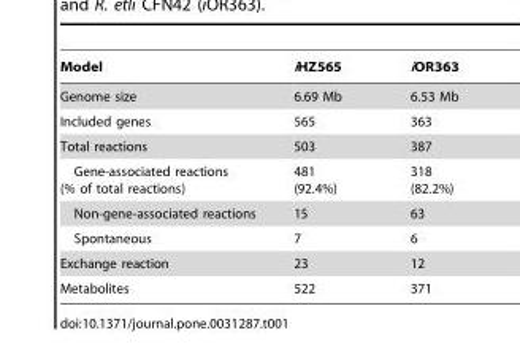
<table><thead><tr><td>Model</td><td>iHZ565</td><td>iOR363</td></tr></thead><tbody><tr><td>Genome size</td><td>6.69 Mb</td><td>6.53 Mb</td></tr><tr><td>Included genes</td><td>565</td><td>363</td></tr><tr><td>Total reactions</td><td>503</td><td>387</td></tr><tr><td>Gene-associated reactions (% of total reactions)</td><td>481 (92.4%)</td><td>318 (82.2%)</td></tr><tr><td>Non-gene-associated reactions</td><td>15</td><td>63</td></tr><tr><td>Spontaneous</td><td>7</td><td>6</td></tr><tr><td>Exchange reaction</td><td>23</td><td>12</td></tr><tr><td>Metabolites</td><td>522</td><td>371</td></tr></tbody></table>